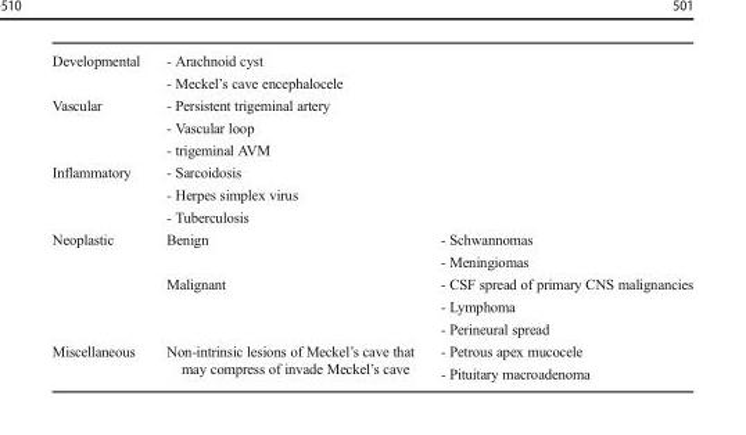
<table><tbody><tr><td>Developmental</td><td colspan="2">- Arachnoid cyst - Meckel’s cave encephalocele</td></tr><tr><td>Vascular</td><td colspan="2">- Persistent trigeminal artery - Vascular loop - trigeminal AVM</td></tr><tr><td>Inflammatory</td><td colspan="2">- Sarcoidosis - Herpes simplex virus - Tuberculosis</td></tr><tr><td rowspan="2">Neoplastic</td><td>Benign</td><td>- Schwannomas - Meningiomas</td></tr><tr><td>Malignant</td><td>- CSF spread of primary CNS malignancies - Lymphoma - Perineural spread</td></tr><tr><td>Miscellaneous</td><td>Non-intrinsic lesions of Meckel’s cave that may compress of invade Meckel’s cave</td><td>- Petrous apex mucocele - Pituitary macroadenoma</td></tr></tbody></table>